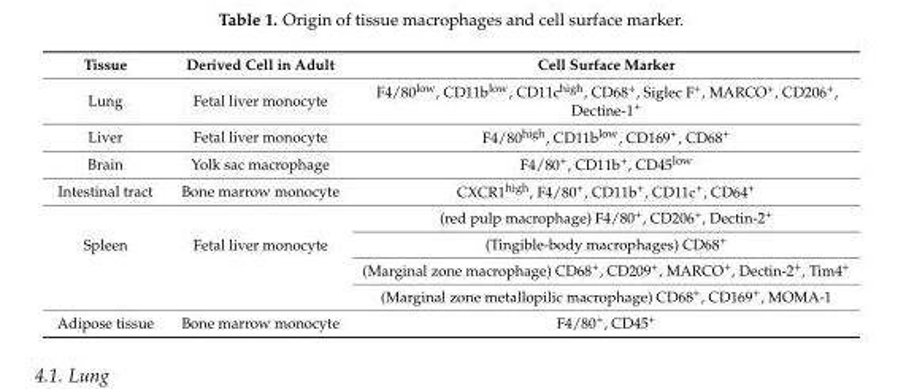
<table><thead><tr><td>Tissue</td><td>Derived Cell in Adult</td><td>Cell Surface Marker</td></tr></thead><tbody><tr><td>Lung</td><td>Fetal liver monocyte</td><td>F4/80<sup>low</sup>, CD11b<sup>low</sup>, CD11c<sup>high</sup>, CD68<sup>+</sup>, Siglec F<sup>+</sup>, MARCO<sup>+</sup>, CD206<sup>+</sup>, Dectine-1<sup>+</sup></td></tr><tr><td>Liver</td><td>Fetal liver monocyte</td><td>F4/80<sup>high</sup>, CD11b<sup>low</sup>, CD169<sup>+</sup>, CD68<sup>+</sup></td></tr><tr><td>Brain</td><td>Yolk sac macrophage</td><td>F4/80<sup>+</sup>, CD11b<sup>+</sup>, CD45<sup>low</sup></td></tr><tr><td>Intestinal tract</td><td>Bone marrow monocyte</td><td>CXCR1<sup>high</sup>, F4/80<sup>+</sup>, CD11b<sup>+</sup>, CD11c<sup>+</sup>, CD64<sup>+</sup></td></tr><tr><td rowspan="4">Spleen</td><td rowspan="4">Fetal liver monocyte</td><td>(red pulp macrophage) F4/80<sup>+</sup>, CD206<sup>+</sup>, Dectin-2<sup>+</sup></td></tr><tr><td>(Tingible-body macrophages) CD68<sup>+</sup></td></tr><tr><td>(Marginal zone macrophage) CD68<sup>+</sup>, CD209<sup>+</sup>, MARCO<sup>+</sup>, Dectin-2<sup>+</sup>, Tim4<sup>+</sup></td></tr><tr><td>(Marginal zone metallopilic macrophage) CD68<sup>+</sup>, CD169<sup>+</sup>, MOMA-1</td></tr><tr><td>Adipose tissue</td><td>Bone marrow monocyte</td><td>F4/80<sup>+</sup>, CD45<sup>+</sup></td></tr></tbody></table>